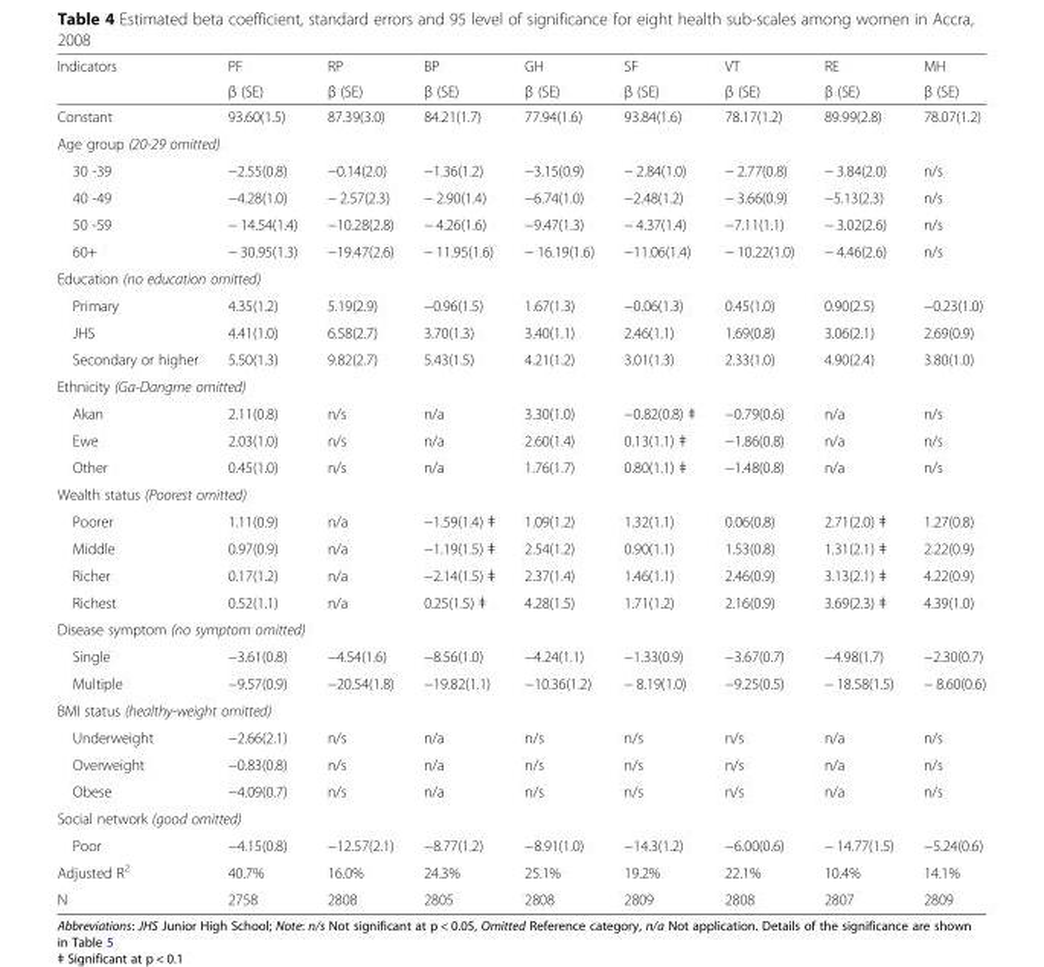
<table><thead><tr><td rowspan="2">Indicators</td><td rowspan="2">PF β (SE)</td><td rowspan="2">RP β (SE)</td><td rowspan="2">BP β (SE)</td><td rowspan="2">GH β (SE)</td><td rowspan="2">SF β (SE)</td><td rowspan="2">VT β (SE)</td><td rowspan="2">RE β (SE)</td><td rowspan="2">MH β (SE)</td></tr><tr></tr></thead><tbody><tr><td>Constant</td><td>93.60(1.5)</td><td>87.39(3.0)</td><td>84.21(1.7)</td><td>77.94(1.6)</td><td>93.84(1.6)</td><td>78.17(1.2)</td><td>89.99(2.8)</td><td>78.07(1.2)</td></tr><tr><td colspan="9">Age group (20-29 omitted)</td></tr><tr><td>30 -39</td><td>−2.55(0.8)</td><td>−0.14(2.0)</td><td>−1.36(1.2)</td><td>−3.15(0.9)</td><td>− 2.84(1.0)</td><td>− 2.77(0.8)</td><td>− 3.84(2.0)</td><td>n/s</td></tr><tr><td>40 -49</td><td>−4.28(1.0)</td><td>− 2.57(2.3)</td><td>− 2.90(1.4)</td><td>−6.74(1.0)</td><td>−2.48(1.2)</td><td>− 3.66(0.9)</td><td>−5.13(2.3)</td><td>n/s</td></tr><tr><td>50 -59</td><td>− 14.54(1.4)</td><td>−10.28(2.8)</td><td>− 4.26(1.6)</td><td>−9.47(1.3)</td><td>− 4.37(1.4)</td><td>−7.11(1.1)</td><td>− 3.02(2.6)</td><td>n/s</td></tr><tr><td>60+</td><td>− 30.95(1.3)</td><td>−19.47(2.6)</td><td>− 11.95(1.6)</td><td>− 16.19(1.6)</td><td>−11.06(1.4)</td><td>− 10.22(1.0)</td><td>− 4.46(2.6)</td><td>n/s</td></tr><tr><td colspan="9">Education (no education omitted)</td></tr><tr><td>Primary</td><td>4.35(1.2)</td><td>5.19(2.9)</td><td>−0.96(1.5)</td><td>1.67(1.3)</td><td>−0.06(1.3)</td><td>0.45(1.0)</td><td>0.90(2.5)</td><td>−0.23(1.0)</td></tr><tr><td>JHS</td><td>4.41(1.0)</td><td>6.58(2.7)</td><td>3.70(1.3)</td><td>3.40(1.1)</td><td>2.46(1.1)</td><td>1.69(0.8)</td><td>3.06(2.1)</td><td>2.69(0.9)</td></tr><tr><td>Secondary or higher</td><td>5.50(1.3)</td><td>9.82(2.7)</td><td>5.43(1.5)</td><td>4.21(1.2)</td><td>3.01(1.3)</td><td>2.33(1.0)</td><td>4.90(2.4)</td><td>3.80(1.0)</td></tr><tr><td colspan="9">Ethnicity (Ga-Dangme omitted)</td></tr><tr><td>Akan</td><td>2.11(0.8)</td><td>n/s</td><td>n/a</td><td>3.30(1.0)</td><td>−0.82(0.8) ǂ</td><td>−0.79(0.6)</td><td>n/a</td><td>n/s</td></tr><tr><td>Ewe</td><td>2.03(1.0)</td><td>n/s</td><td>n/a</td><td>2.60(1.4)</td><td>0.13(1.1) ǂ</td><td>−1.86(0.8)</td><td>n/a</td><td>n/s</td></tr><tr><td>Other</td><td>0.45(1.0)</td><td>n/s</td><td>n/a</td><td>1.76(1.7)</td><td>0.80(1.1) ǂ</td><td>−1.48(0.8)</td><td>n/a</td><td>n/s</td></tr><tr><td colspan="9">Wealth status (Poorest omitted)</td></tr><tr><td>Poorer</td><td>1.11(0.9)</td><td>n/a</td><td>−1.59(1.4) ǂ</td><td>1.09(1.2)</td><td>1.32(1.1)</td><td>0.06(0.8)</td><td>2.71(2.0) ǂ</td><td>1.27(0.8)</td></tr><tr><td>Middle</td><td>0.97(0.9)</td><td>n/a</td><td>−1.19(1.5) ǂ</td><td>2.54(1.2)</td><td>0.90(1.1)</td><td>1.53(0.8)</td><td>1.31(2.1) ǂ</td><td>2.22(0.9)</td></tr><tr><td>Richer</td><td>0.17(1.2)</td><td>n/a</td><td>−2.14(1.5) ǂ</td><td>2.37(1.4)</td><td>1.46(1.1)</td><td>2.46(0.9)</td><td>3.13(2.1) ǂ</td><td>4.22(0.9)</td></tr><tr><td>Richest</td><td>0.52(1.1)</td><td>n/a</td><td>0.25(1.5) ǂ</td><td>4.28(1.5)</td><td>1.71(1.2)</td><td>2.16(0.9)</td><td>3.69(2.3) ǂ</td><td>4.39(1.0)</td></tr><tr><td colspan="9">Disease symptom (no symptom omitted)</td></tr><tr><td>Single</td><td>−3.61(0.8)</td><td>−4.54(1.6)</td><td>−8.56(1.0)</td><td>−4.24(1.1)</td><td>−1.33(0.9)</td><td>−3.67(0.7)</td><td>−4.98(1.7)</td><td>−2.30(0.7)</td></tr><tr><td>Multiple</td><td>−9.57(0.9)</td><td>−20.54(1.8)</td><td>−19.82(1.1)</td><td>−10.36(1.2)</td><td>− 8.19(1.0)</td><td>−9.25(0.5)</td><td>− 18.58(1.5)</td><td>− 8.60(0.6)</td></tr><tr><td colspan="9">BMI status (healthy-weight omitted)</td></tr><tr><td>Underweight</td><td>−2.66(2.1)</td><td>n/s</td><td>n/a</td><td>n/s</td><td>n/s</td><td>n/s</td><td>n/a</td><td>n/s</td></tr><tr><td>Overweight</td><td>−0.83(0.8)</td><td>n/s</td><td>n/a</td><td>n/s</td><td>n/s</td><td>n/s</td><td>n/a</td><td>n/s</td></tr><tr><td>Obese</td><td>−4.09(0.7)</td><td>n/s</td><td>n/a</td><td>n/s</td><td>n/s</td><td>n/s</td><td>n/a</td><td>n/s</td></tr><tr><td colspan="9">Social network (good omitted)</td></tr><tr><td>Poor</td><td>−4.15(0.8)</td><td>−12.57(2.1)</td><td>−8.77(1.2)</td><td>−8.91(1.0)</td><td>−14.3(1.2)</td><td>−6.00(0.6)</td><td>− 14.77(1.5)</td><td>−5.24(0.6)</td></tr><tr><td>Adjusted R<sup>2</sup></td><td>40.7%</td><td>16.0%</td><td>24.3%</td><td>25.1%</td><td>19.2%</td><td>22.1%</td><td>10.4%</td><td>14.1%</td></tr><tr><td>N</td><td>2758</td><td>2808</td><td>2805</td><td>2808</td><td>2809</td><td>2808</td><td>2807</td><td>2809</td></tr></tbody></table>